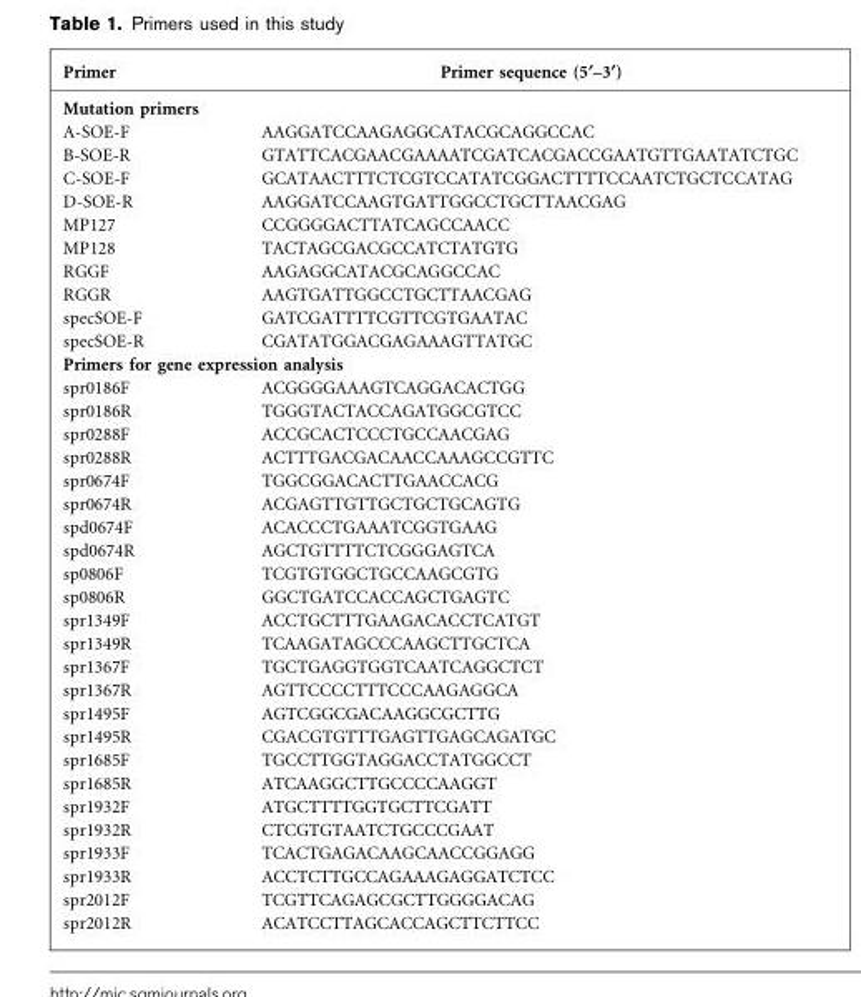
<table><thead><tr><td>Primer</td><td>Primer sequence (5§–3§)</td></tr></thead><tbody><tr><td colspan="2">Mutation primers</td></tr><tr><td>A-SOE-F</td><td>AAGGATCCAAGAGGCATACGCAGGCCAC</td></tr><tr><td>B-SOE-R</td><td>GTATTCACGAACGAAAATCGATCACGACCGAATGTTGAATATCTGC</td></tr><tr><td>C-SOE-F</td><td>GCATAACTTTCTCGTCCATATCGGACTTTTCCAATCTGCTCCATAG</td></tr><tr><td>D-SOE-R</td><td>AAGGATCCAAGTGATTGGCCTGCTTAACGAG</td></tr><tr><td>MP127</td><td>CCGGGGACTTATCAGCCAACC</td></tr><tr><td>MP128</td><td>TACTAGCGACGCCATCTATGTG</td></tr><tr><td>RGGF</td><td>AAGAGGCATACGCAGGCCAC</td></tr><tr><td>RGGR</td><td>AAGTGATTGGCCTGCTTAACGAG</td></tr><tr><td>specSOE-F</td><td>GATCGATTTTCGTTCGTGAATAC</td></tr><tr><td>specSOE-R</td><td>CGATATGGACGAGAAAGTTATGC</td></tr><tr><td colspan="2">Primers for gene expression analysis</td></tr><tr><td>spr0186F</td><td>ACGGGGAAAGTCAGGACACTGG</td></tr><tr><td>spr0186R</td><td>TGGGTACTACCAGATGGCGTCC</td></tr><tr><td>spr0288F</td><td>ACCGCACTCCCTGCCAACGAG</td></tr><tr><td>spr0288R</td><td>ACTTTGACGACAACCAAAGCCGTTC</td></tr><tr><td>spr0674F</td><td>TGGCGGACACTTGAACCACG</td></tr><tr><td>spr0674R</td><td>ACGAGTTGTTGCTGCTGCAGTG</td></tr><tr><td>spd0674F</td><td>ACACCCTGAAATCGGTGAAG</td></tr><tr><td>spd0674R</td><td>AGCTGTTTTCTCGGGAGTCA</td></tr><tr><td>sp0806F</td><td>TCGTGTGGCTGCCAAGCGTG</td></tr><tr><td>sp0806R</td><td>GGCTGATCCACCAGCTGAGTC</td></tr><tr><td>spr1349F</td><td>ACCTGCTTTGAAGACACCTCATGT</td></tr><tr><td>spr1349R</td><td>TCAAGATAGCCCAAGCTTGCTCA</td></tr><tr><td>spr1367F</td><td>TGCTGAGGTGGTCAATCAGGCTCT</td></tr><tr><td>spr1367R</td><td>AGTTCCCCTTTCCCAAGAGGCA</td></tr><tr><td>spr1495F</td><td>AGTCGGCGACAAGGCGCTTG</td></tr><tr><td>spr1495R</td><td>CGACGTGTTTGAGTTGAGCAGATGC</td></tr><tr><td>spr1685F</td><td>TGCCTTGGTAGGACCTATGGCCT</td></tr><tr><td>spr1685R</td><td>ATCAAGGCTTGCCCCAAGGT</td></tr><tr><td>spr1932F</td><td>ATGCTTTTGGTGCTTCGATT</td></tr><tr><td>spr1932R</td><td>CTCGTGTAATCTGCCCGAAT</td></tr><tr><td>spr1933F</td><td>TCACTGAGACAAGCAACCGGAGG</td></tr><tr><td>spr1933R</td><td>ACCTCTTGCCAGAAAGAGGATCTCC</td></tr><tr><td>spr2012F</td><td>TCGTTCAGAGCGCTTGGGGACAG</td></tr><tr><td>spr2012R</td><td>ACATCCTTAGCACCAGCTTCTTCC</td></tr></tbody></table>